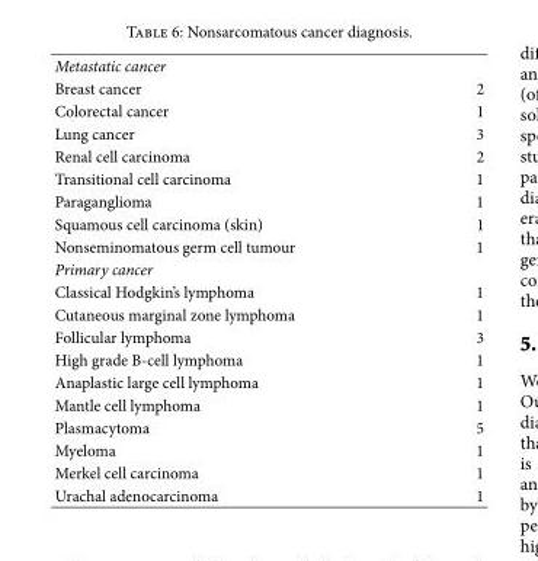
<table><tbody><tr><td colspan="2">Metastatic cancer</td></tr><tr><td>Breast cancer</td><td>2</td></tr><tr><td>Colorectal cancer</td><td>1</td></tr><tr><td>Lung cancer</td><td>3</td></tr><tr><td>Renal cell carcinoma</td><td>2</td></tr><tr><td>Transitional cell carcinoma</td><td>1</td></tr><tr><td>Paraganglioma</td><td>1</td></tr><tr><td>Squamous cell carcinoma (skin)</td><td>1</td></tr><tr><td>Nonseminomatous germ cell tumour</td><td>1</td></tr><tr><td colspan="2">Primary cancer</td></tr><tr><td>Classical Hodgkin’s lymphoma</td><td>1</td></tr><tr><td>Cutaneous marginal zone lymphoma</td><td>1</td></tr><tr><td>Follicular lymphoma</td><td>3</td></tr><tr><td>High grade B-cell lymphoma</td><td>1</td></tr><tr><td>Anaplastic large cell lymphoma</td><td>1</td></tr><tr><td>Mantle cell lymphoma</td><td>1</td></tr><tr><td>Plasmacytoma</td><td>5</td></tr><tr><td>Myeloma</td><td>1</td></tr><tr><td>Merkel cell carcinoma</td><td>1</td></tr><tr><td>Urachal adenocarcinoma</td><td>1</td></tr></tbody></table>